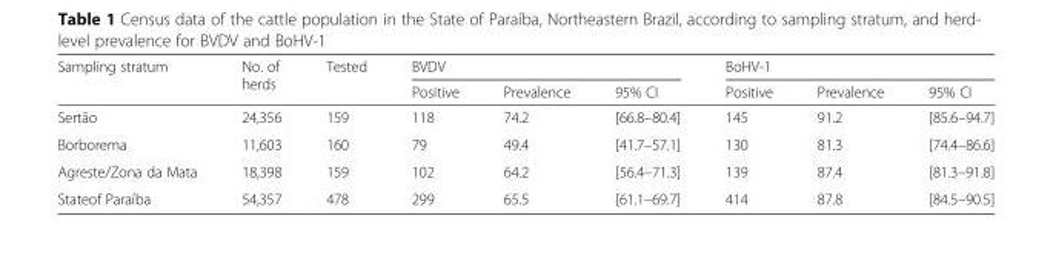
<table><thead><tr><td rowspan="2">Sampling stratum</td><td rowspan="2">No. of herds</td><td rowspan="2">Tested</td><td colspan="3">BVDV</td><td colspan="3">BoHV-1</td></tr><tr><td>Positive</td><td>Prevalence</td><td>95% CI</td><td>Positive</td><td>Prevalence</td><td>95% CI</td></tr></thead><tbody><tr><td>Sertão</td><td>24,356</td><td>159</td><td>118</td><td>74.2</td><td>[66.8–80.4]</td><td>145</td><td>91.2</td><td>[85.6–94.7]</td></tr><tr><td>Borborema</td><td>11,603</td><td>160</td><td>79</td><td>49.4</td><td>[41.7–57.1]</td><td>130</td><td>81.3</td><td>[74.4–86.6]</td></tr><tr><td>Agreste/Zona da Mata</td><td>18,398</td><td>159</td><td>102</td><td>64.2</td><td>[56.4–71.3]</td><td>139</td><td>87.4</td><td>[81.3–91.8]</td></tr><tr><td>Stateof Paraíba</td><td>54,357</td><td>478</td><td>299</td><td>65.5</td><td>[61.1–69.7]</td><td>414</td><td>87.8</td><td>[84.5–90.5]</td></tr></tbody></table>